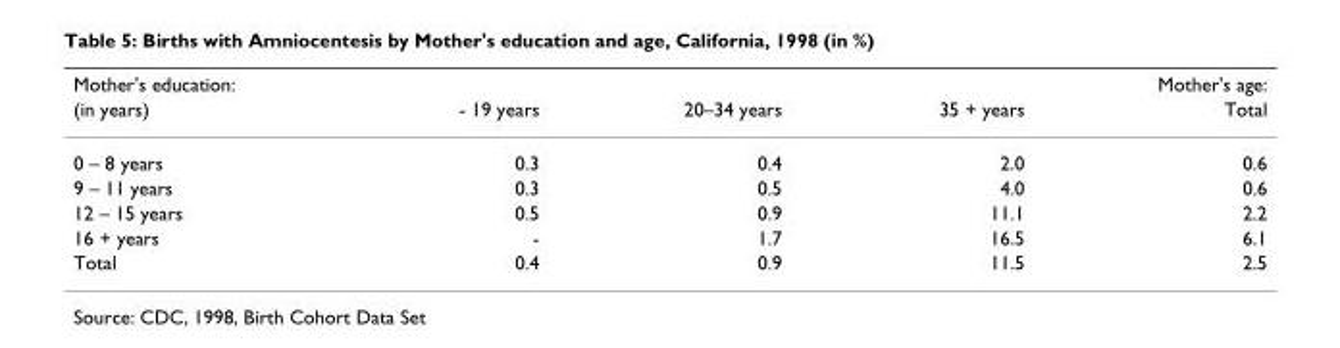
<table><thead><tr><td colspan="2">Mother&#x27;s education:</td><td colspan="3">Mother&#x27;s age:</td></tr><tr><td>(in years)</td><td>- 19 years</td><td>20–34 years</td><td>35 + years</td><td>Total</td></tr></thead><tbody><tr><td>0 – 8 years</td><td>0.3</td><td>0.4</td><td>2.0</td><td>0.6</td></tr><tr><td>9 – 11 years</td><td>0.3</td><td>0.5</td><td>4.0</td><td>0.6</td></tr><tr><td>12 – 15 years</td><td>0.5</td><td>0.9</td><td>11.1</td><td>2.2</td></tr><tr><td>16 + years</td><td>-</td><td>1.7</td><td>16.5</td><td>6.1</td></tr><tr><td>Total</td><td>0.4</td><td>0.9</td><td>11.5</td><td>2.5</td></tr></tbody></table>